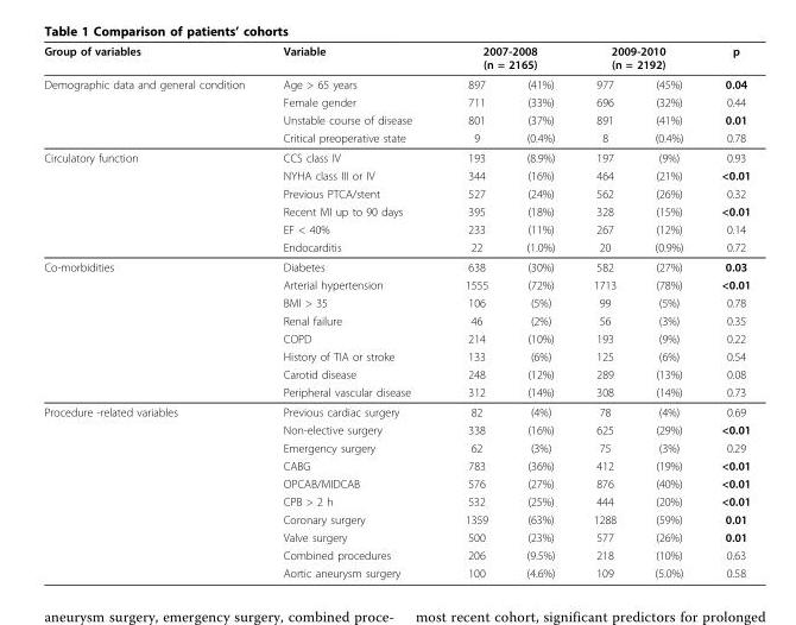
<table><thead><tr><td rowspan="2">Group of variables Demographic data and general condition</td><td rowspan="2">Variable Age &gt; 65 years</td><td colspan="2">2007-2008 (n = 2165)</td><td colspan="2">2009-2010 (n = 2192)</td><td rowspan="2">p 0.04</td></tr><tr><td>897</td><td>(41%)</td><td>977</td><td>(45%)</td></tr></thead><tbody><tr><td></td><td>Female gender</td><td>711</td><td>(33%)</td><td>696</td><td>(32%)</td><td>0.44</td></tr><tr><td></td><td>Unstable course of disease</td><td>801</td><td>(37%)</td><td>891</td><td>(41%)</td><td>0.01</td></tr><tr><td></td><td>Critical preoperative state</td><td>9</td><td>(0.4%)</td><td>8</td><td>(0.4%)</td><td>0.78</td></tr><tr><td rowspan="6">Circulatory function</td><td>CCS class IV</td><td>193</td><td>(8.9%)</td><td>197</td><td>(9%)</td><td>0.93</td></tr><tr><td>NYHA class III or IV</td><td>344</td><td>(16%)</td><td>464</td><td>(21%)</td><td>&lt;0.01</td></tr><tr><td>Previous PTCA/stent</td><td>527</td><td>(24%)</td><td>562</td><td>(26%)</td><td>0.32</td></tr><tr><td>Recent MI up to 90 days</td><td>395</td><td>(18%)</td><td>328</td><td>(15%)</td><td>&lt;0.01</td></tr><tr><td>EF &lt; 40%</td><td>233</td><td>(11%)</td><td>267</td><td>(12%)</td><td>0.14</td></tr><tr><td>Endocarditis</td><td>22</td><td>(1.0%)</td><td>20</td><td>(0.9%)</td><td>0.72</td></tr><tr><td rowspan="8">Co-morbidities</td><td>Diabetes</td><td>638</td><td>(30%)</td><td>582</td><td>(27%)</td><td>0.03</td></tr><tr><td>Arterial hypertension</td><td>1555</td><td>(72%)</td><td>1713</td><td>(78%)</td><td>&lt;0.01</td></tr><tr><td>BMI &gt; 35</td><td>106</td><td>(5%)</td><td>99</td><td>(5%)</td><td>0.78</td></tr><tr><td>Renal failure</td><td>46</td><td>(2%)</td><td>56</td><td>(3%)</td><td>0.35</td></tr><tr><td>COPD</td><td>214</td><td>(10%)</td><td>193</td><td>(9%)</td><td>0.22</td></tr><tr><td>History of TIA or stroke</td><td>133</td><td>(6%)</td><td>125</td><td>(6%)</td><td>0.54</td></tr><tr><td>Carotid disease</td><td>248</td><td>(12%)</td><td>289</td><td>(13%)</td><td>0.08</td></tr><tr><td>Peripheral vascular disease</td><td>312</td><td>(14%)</td><td>308</td><td>(14%)</td><td>0.73</td></tr><tr><td rowspan="10">Procedure -related variables</td><td>Previous cardiac surgery</td><td>82</td><td>(4%)</td><td>78</td><td>(4%)</td><td>0.69</td></tr><tr><td>Non-elective surgery</td><td>338</td><td>(16%)</td><td>625</td><td>(29%)</td><td>&lt;0.01</td></tr><tr><td>Emergency surgery</td><td>62</td><td>(3%)</td><td>75</td><td>(3%)</td><td>0.29</td></tr><tr><td>CABG</td><td>783</td><td>(36%)</td><td>412</td><td>(19%)</td><td>&lt;0.01</td></tr><tr><td>OPCAB/MIDCAB</td><td>576</td><td>(27%)</td><td>876</td><td>(40%)</td><td>&lt;0.01</td></tr><tr><td>CPB &gt; 2 h</td><td>532</td><td>(25%)</td><td>444</td><td>(20%)</td><td>&lt;0.01</td></tr><tr><td>Coronary surgery</td><td>1359</td><td>(63%)</td><td>1288</td><td>(59%)</td><td>0.01</td></tr><tr><td>Valve surgery</td><td>500</td><td>(23%)</td><td>577</td><td>(26%)</td><td>0.01</td></tr><tr><td>Combined procedures</td><td>206</td><td>(9.5%)</td><td>218</td><td>(10%)</td><td>0.63</td></tr><tr><td>Aortic aneurysm surgery</td><td>100</td><td>(4.6%)</td><td>109</td><td>(5.0%)</td><td>0.58</td></tr></tbody></table>